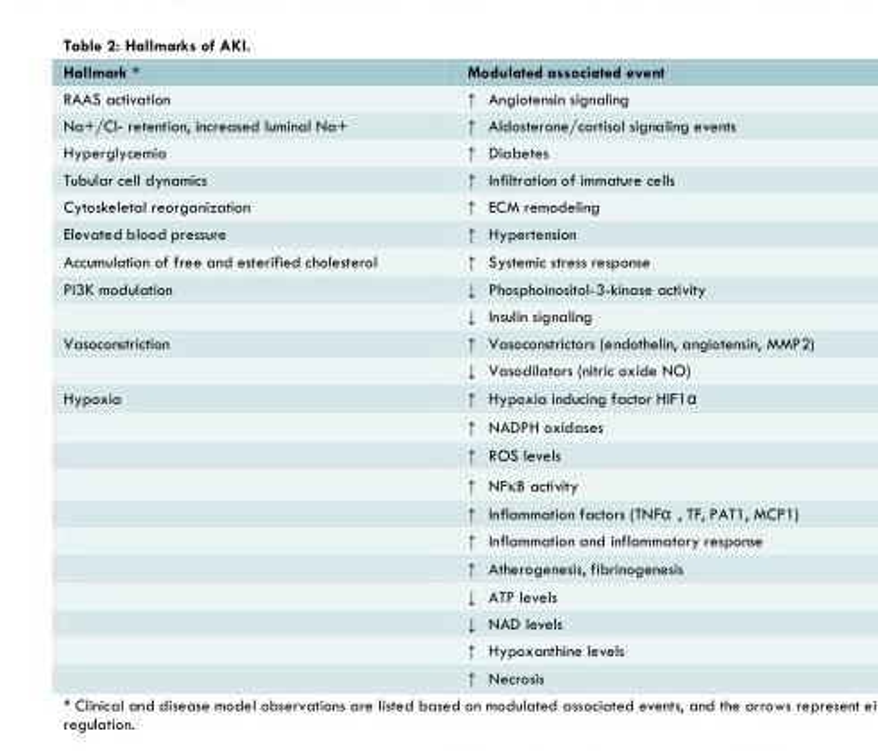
<table><thead><tr><td>Hallmark *</td><td>Modulated associated event</td></tr></thead><tbody><tr><td>RAAS activation</td><td>↑ Angiotensin signaling</td></tr><tr><td>Na+/Cl- retention, increased luminal Na+</td><td>↑ Aldosterone/cortisol signaling events</td></tr><tr><td>Hyperglycemia</td><td>↑ Diabetes</td></tr><tr><td>Tubular cell dynamics</td><td>↑ Infiltration of immature cells</td></tr><tr><td>Cytoskeletal reorganization</td><td>↑ ECM remodeling</td></tr><tr><td>Elevated blood pressure</td><td>↑ Hypertension</td></tr><tr><td>Accumulation of free and esterified cholesterol</td><td>↑ Systemic stress response</td></tr><tr><td rowspan="2">PI3K modulation</td><td>↓ Phosphoinositol-3-kinase activity</td></tr><tr><td>↓ Insulin signaling</td></tr><tr><td rowspan="2">Vasoconstriction</td><td>↑ Vasoconstrictors (endothelin, angiotensin, MMP2)</td></tr><tr><td>↓ Vasodilators (nitric oxide NO)</td></tr><tr><td rowspan="11">Hypoxia</td><td>↑ Hypoxia inducing factor HIF1α</td></tr><tr><td>↑ NADPH oxidases</td></tr><tr><td>↑ ROS levels</td></tr><tr><td>↑ NFkB activity</td></tr><tr><td>↑ Inflammation factors (TNFα , TF, PAT1, MCP1)</td></tr><tr><td>↑ Inflammation and inflammatory response</td></tr><tr><td>↑ Atherogenesis, fibrinogenesis</td></tr><tr><td>↓ ATP levels</td></tr><tr><td>↓ NAD levels</td></tr><tr><td>↑ Hypoxanthine levels</td></tr><tr><td>↑ Necrosis</td></tr></tbody></table>